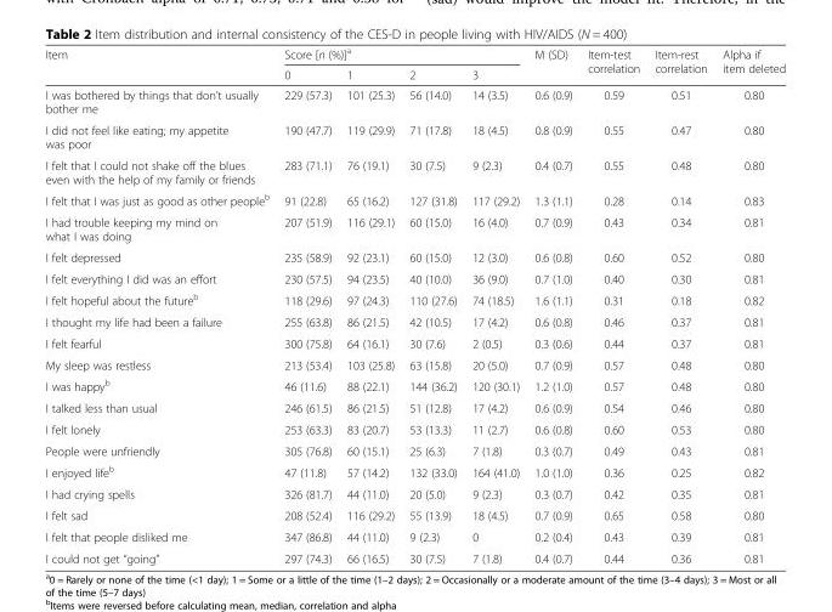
<table><thead><tr><td rowspan="2">Item</td><td colspan="4">Score [n (%)]<sup>a</sup></td><td rowspan="2">M (SD)</td><td rowspan="2">Item-test correlation</td><td rowspan="2">Item-rest correlation</td><td rowspan="2">Alpha if item deleted</td></tr><tr><td>0</td><td>1</td><td>2</td><td>3</td></tr></thead><tbody><tr><td>I was bothered by things that don’t usually bother me</td><td>229 (57.3)</td><td>101 (25.3)</td><td>56 (14.0)</td><td>14 (3.5)</td><td>0.6 (0.9)</td><td>0.59</td><td>0.51</td><td>0.80</td></tr><tr><td>I did not feel like eating; my appetite was poor</td><td>190 (47.7)</td><td>119 (29.9)</td><td>71 (17.8)</td><td>18 (4.5)</td><td>0.8 (0.9)</td><td>0.55</td><td>0.47</td><td>0.80</td></tr><tr><td>I felt that I could not shake off the blues even with the help of my family or friends</td><td>283 (71.1)</td><td>76 (19.1)</td><td>30 (7.5)</td><td>9 (2.3)</td><td>0.4 (0.7)</td><td>0.55</td><td>0.48</td><td>0.80</td></tr><tr><td>I felt that I was just as good as other people<sup>b</sup></td><td>91 (22.8)</td><td>65 (16.2)</td><td>127 (31.8)</td><td>117 (29.2)</td><td>1.3 (1.1)</td><td>0.28</td><td>0.14</td><td>0.83</td></tr><tr><td>I had trouble keeping my mind on what I was doing</td><td>207 (51.9)</td><td>116 (29.1)</td><td>60 (15.0)</td><td>16 (4.0)</td><td>0.7 (0.9)</td><td>0.43</td><td>0.34</td><td>0.81</td></tr><tr><td>I felt depressed</td><td>235 (58.9)</td><td>92 (23.1)</td><td>60 (15.0)</td><td>12 (3.0)</td><td>0.6 (0.8)</td><td>0.60</td><td>0.52</td><td>0.80</td></tr><tr><td>I felt everything I did was an effort</td><td>230 (57.5)</td><td>94 (23.5)</td><td>40 (10.0)</td><td>36 (9.0)</td><td>0.7 (1.0)</td><td>0.40</td><td>0.30</td><td>0.81</td></tr><tr><td>I felt hopeful about the future<sup>b</sup></td><td>118 (29.6)</td><td>97 (24.3)</td><td>110 (27.6)</td><td>74 (18.5)</td><td>1.6 (1.1)</td><td>0.31</td><td>0.18</td><td>0.82</td></tr><tr><td>I thought my life had been a failure</td><td>255 (63.8)</td><td>86 (21.5)</td><td>42 (10.5)</td><td>17 (4.2)</td><td>0.6 (0.8)</td><td>0.46</td><td>0.37</td><td>0.81</td></tr><tr><td>I felt fearful</td><td>300 (75.8)</td><td>64 (16.1)</td><td>30 (7.6)</td><td>2 (0.5)</td><td>0.3 (0.6)</td><td>0.44</td><td>0.37</td><td>0.81</td></tr><tr><td>My sleep was restless</td><td>213 (53.4)</td><td>103 (25.8)</td><td>63 (15.8)</td><td>20 (5.0)</td><td>0.7 (0.9)</td><td>0.57</td><td>0.48</td><td>0.80</td></tr><tr><td>I was happy<sup>b</sup></td><td>46 (11.6)</td><td>88 (22.1)</td><td>144 (36.2)</td><td>120 (30.1)</td><td>1.2 (1.0)</td><td>0.57</td><td>0.48</td><td>0.80</td></tr><tr><td>I talked less than usual</td><td>246 (61.5)</td><td>86 (21.5)</td><td>51 (12.8)</td><td>17 (4.2)</td><td>0.6 (0.9)</td><td>0.54</td><td>0.46</td><td>0.80</td></tr><tr><td>I felt lonely</td><td>253 (63.3)</td><td>83 (20.7)</td><td>53 (13.3)</td><td>11 (2.7)</td><td>0.6 (0.8)</td><td>0.60</td><td>0.53</td><td>0.80</td></tr><tr><td>People were unfriendly</td><td>305 (76.8)</td><td>60 (15.1)</td><td>25 (6.3)</td><td>7 (1.8)</td><td>0.3 (0.7)</td><td>0.49</td><td>0.43</td><td>0.81</td></tr><tr><td>I enjoyed life<sup>b</sup></td><td>47 (11.8)</td><td>57 (14.2)</td><td>132 (33.0)</td><td>164 (41.0)</td><td>1.0 (1.0)</td><td>0.36</td><td>0.25</td><td>0.82</td></tr><tr><td>I had crying spells</td><td>326 (81.7)</td><td>44 (11.0)</td><td>20 (5.0)</td><td>9 (2.3)</td><td>0.3 (0.7)</td><td>0.42</td><td>0.35</td><td>0.81</td></tr><tr><td>I felt sad</td><td>208 (52.4)</td><td>116 (29.2)</td><td>55 (13.9)</td><td>18 (4.5)</td><td>0.7 (0.9)</td><td>0.65</td><td>0.58</td><td>0.80</td></tr><tr><td>I felt that people disliked me</td><td>347 (86.8)</td><td>44 (11.0)</td><td>9 (2.3)</td><td>0</td><td>0.2 (0.4)</td><td>0.43</td><td>0.39</td><td>0.81</td></tr><tr><td>I could not get “going”</td><td>297 (74.3)</td><td>66 (16.5)</td><td>30 (7.5)</td><td>7 (1.8)</td><td>0.4 (0.7)</td><td>0.44</td><td>0.36</td><td>0.81</td></tr></tbody></table>